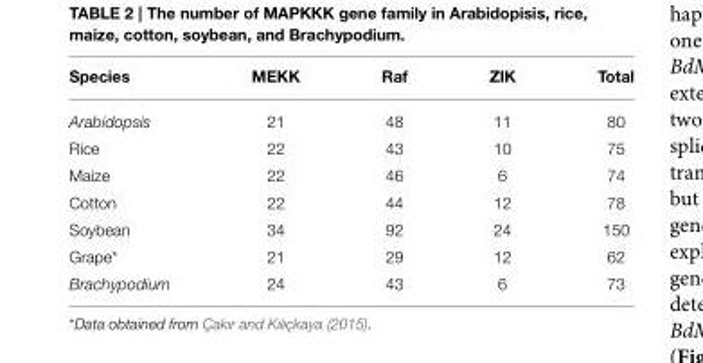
<table><thead><tr><td>Species</td><td>MEKK</td><td>Raf</td><td>ZIK</td><td>Total</td></tr></thead><tbody><tr><td>Arabidopsis</td><td>21</td><td>48</td><td>11</td><td>80</td></tr><tr><td>Rice</td><td>22</td><td>43</td><td>10</td><td>75</td></tr><tr><td>Maize</td><td>22</td><td>46</td><td>6</td><td>74</td></tr><tr><td>Cotton</td><td>22</td><td>44</td><td>12</td><td>78</td></tr><tr><td>Soybean</td><td>34</td><td>92</td><td>24</td><td>150</td></tr><tr><td>Grape*</td><td>21</td><td>29</td><td>12</td><td>62</td></tr><tr><td>Brachypodium</td><td>24</td><td>43</td><td>6</td><td>73</td></tr></tbody></table>